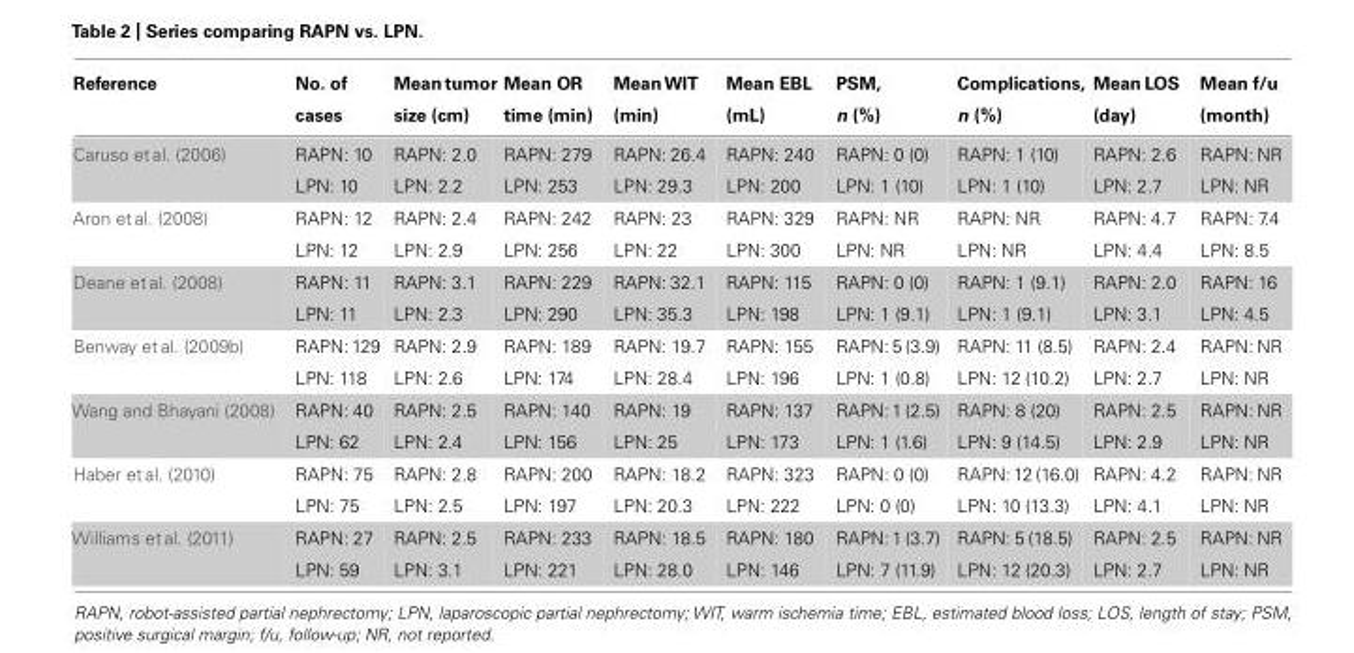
<table><thead><tr><td>Reference</td><td>No. of cases</td><td>Mean tumor size (cm)</td><td>Mean OR time (min)</td><td>Mean WIT (min)</td><td>Mean EBL (mL)</td><td>PSM, n (%)</td><td>Complications, n (%)</td><td>Mean LOS (day)</td><td>Mean f/u (month)</td></tr></thead><tbody><tr><td>Caruso et al. (2006)</td><td>RAPN: 10 LPN: 10</td><td>RAPN: 2.0 LPN: 2.2</td><td>RAPN: 279 LPN: 253</td><td>RAPN: 26.4 LPN: 29.3</td><td>RAPN: 240 LPN: 200</td><td>RAPN: 0 (0) LPN: 1 (10)</td><td>RAPN: 1 (10) LPN: 1 (10)</td><td>RAPN: 2.6 LPN: 2.7</td><td>RAPN: NR LPN: NR</td></tr><tr><td>Aron et al. (2008)</td><td>RAPN: 12 LPN: 12</td><td>RAPN: 2.4 LPN: 2.9</td><td>RAPN: 242 LPN: 256</td><td>RAPN: 23 LPN: 22</td><td>RAPN: 329 LPN: 300</td><td>RAPN: NR LPN: NR</td><td>RAPN: NR LPN: NR</td><td>RAPN: 4.7 LPN: 4.4</td><td>RAPN: 7.4 LPN: 8.5</td></tr><tr><td>Deane et al. (2008)</td><td>RAPN: 11 LPN: 11</td><td>RAPN: 3.1 LPN: 2.3</td><td>RAPN: 229 LPN: 290</td><td>RAPN: 32.1 LPN: 35.3</td><td>RAPN: 115 LPN: 198</td><td>RAPN: 0 (0) LPN: 1 (9.1)</td><td>RAPN: 1 (9.1) LPN: 1 (9.1)</td><td>RAPN: 2.0 LPN: 3.1</td><td>RAPN: 16 LPN: 4.5</td></tr><tr><td>Benway et al. (2009b)</td><td>RAPN: 129 LPN: 118</td><td>RAPN: 2.9 LPN: 2.6</td><td>RAPN: 189 LPN: 174</td><td>RAPN: 19.7 LPN: 28.4</td><td>RAPN: 155 LPN: 196</td><td>RAPN: 5 (3.9) LPN: 1 (0.8)</td><td>RAPN: 11 (8.5) LPN: 12 (10.2)</td><td>RAPN: 2.4 LPN: 2.7</td><td>RAPN: NR LPN: NR</td></tr><tr><td>Wang and Bhayani (2008)</td><td>RAPN: 40 LPN: 62</td><td>RAPN: 2.5 LPN: 2.4</td><td>RAPN: 140 LPN: 156</td><td>RAPN: 19 LPN: 25</td><td>RAPN: 137 LPN: 173</td><td>RAPN: 1 (2.5) LPN: 1 (1.6)</td><td>RAPN: 8 (20) LPN: 9 (14.5)</td><td>RAPN: 2.5 LPN: 2.9</td><td>RAPN: NR LPN: NR</td></tr><tr><td>Haber et al. (2010)</td><td>RAPN: 75 LPN: 75</td><td>RAPN: 2.8 LPN: 2.5</td><td>RAPN: 200 LPN: 197</td><td>RAPN: 18.2 LPN: 20.3</td><td>RAPN: 323 LPN: 222</td><td>RAPN: 0 (0) LPN: 0 (0)</td><td>RAPN: 12 (16.0) LPN: 10 (13.3)</td><td>RAPN: 4.2 LPN: 4.1</td><td>RAPN: NR LPN: NR</td></tr><tr><td>Williams et al. (2011)</td><td>RAPN: 27 LPN: 59</td><td>RAPN: 2.5 LPN: 3.1</td><td>RAPN: 233 LPN: 221</td><td>RAPN: 18.5 LPN: 28.0</td><td>RAPN: 180 LPN: 146</td><td>RAPN: 1 (3.7) LPN: 7 (11.9)</td><td>RAPN: 5 (18.5) LPN: 12 (20.3)</td><td>RAPN: 2.5 LPN: 2.7</td><td>RAPN: NR LPN: NR</td></tr></tbody></table>